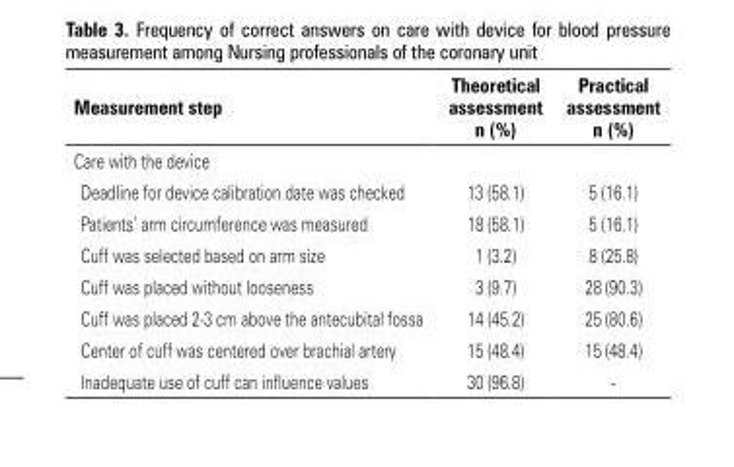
<table><thead><tr><td>Measurement step</td><td>Theoretical assessment n (%)</td><td>Practical assessment n (%)</td></tr></thead><tbody><tr><td colspan="3">Care with the device</td></tr><tr><td>Deadline for device calibration date was checked</td><td>13 (58.1)</td><td>5 (16.1)</td></tr><tr><td>Patients’ arm circumference was measured</td><td>18 (58.1)</td><td>5 (16.1)</td></tr><tr><td>Cuff was selected based on arm size</td><td>1 (3.2)</td><td>8 (25.8)</td></tr><tr><td>Cuff was placed without looseness</td><td>3 (9.7)</td><td>28 (90.3)</td></tr><tr><td>Cuff was placed 2-3 cm above the antecubital fossa</td><td>14 (45.2)</td><td>25 (80.6)</td></tr><tr><td>Center of cuff was centered over brachial artery</td><td>15 (48.4)</td><td>15 (48.4)</td></tr><tr><td>Inadequate use of cuff can influence values</td><td>30 (96.8)</td><td>-</td></tr></tbody></table>